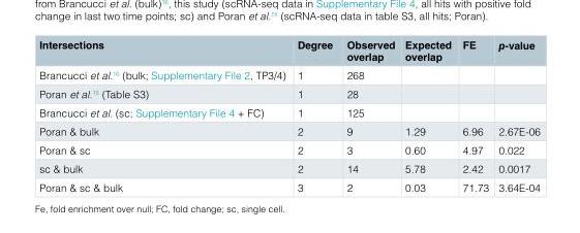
<table><thead><tr><td>Intersections</td><td>Degree</td><td>Observed overlap</td><td>Expected overlap</td><td>FE</td><td>p-value</td></tr></thead><tbody><tr><td>Brancucci et al.<sup>16</sup> (bulk; Supplementary File 2, TP3/4)</td><td>1</td><td>268</td><td></td><td></td><td></td></tr><tr><td>Poran et al.<sup>15</sup> (Table S3)</td><td>1</td><td>28</td><td></td><td></td><td></td></tr><tr><td>Brancucci et al. (sc; Supplementary File 4 + FC)</td><td>1</td><td>125</td><td></td><td></td><td></td></tr><tr><td>Poran &amp; bulk</td><td>2</td><td>9</td><td>1.29</td><td>6.96</td><td>2.67E-06</td></tr><tr><td>Poran &amp; sc</td><td>2</td><td>3</td><td>0.60</td><td>4.97</td><td>0.022</td></tr><tr><td>sc &amp; bulk</td><td>2</td><td>14</td><td>5.78</td><td>2.42</td><td>0.0017</td></tr><tr><td>Poran &amp; sc &amp; bulk</td><td>3</td><td>2</td><td>0.03</td><td>71.73</td><td>3.64E-04</td></tr></tbody></table>